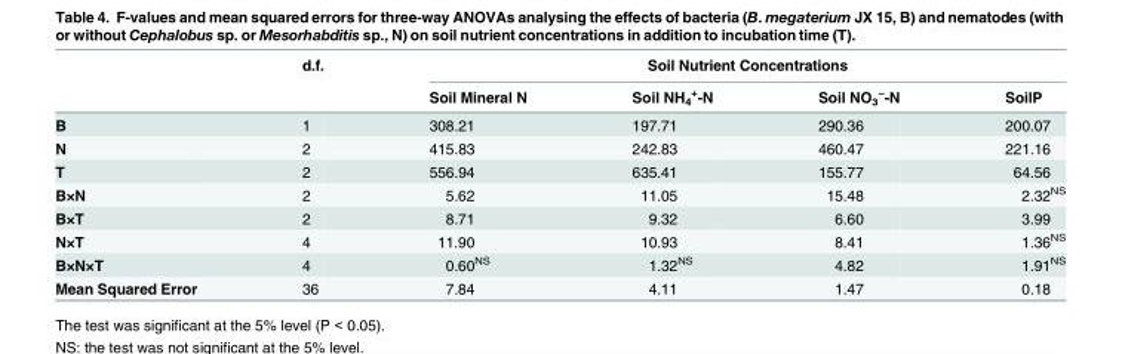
<table><thead><tr><td rowspan="2"></td><td rowspan="2">d.f.</td><td colspan="4">Soil Nutrient Concentrations</td></tr><tr><td>Soil Mineral N</td><td>Soil NH<sub>4</sub> <sup>+</sup>-N</td><td>Soil NO<sub>3</sub> <sup>−</sup>-N</td><td>SoilP</td></tr></thead><tbody><tr><td>B</td><td>1</td><td>308.21</td><td>197.71</td><td>290.36</td><td>200.07</td></tr><tr><td>N</td><td>2</td><td>415.83</td><td>242.83</td><td>460.47</td><td>221.16</td></tr><tr><td>T</td><td>2</td><td>556.94</td><td>635.41</td><td>155.77</td><td>64.56</td></tr><tr><td>B×N</td><td>2</td><td>5.62</td><td>11.05</td><td>15.48</td><td>2.32<sup>NS</sup></td></tr><tr><td>B×T</td><td>2</td><td>8.71</td><td>9.32</td><td>6.60</td><td>3.99</td></tr><tr><td>N×T</td><td>4</td><td>11.90</td><td>10.93</td><td>8.41</td><td>1.36<sup>NS</sup></td></tr><tr><td>B×N×T</td><td>4</td><td>0.60<sup>NS</sup></td><td>1.32<sup>NS</sup></td><td>4.82</td><td>1.91<sup>NS</sup></td></tr><tr><td>Mean Squared Error</td><td>36</td><td>7.84</td><td>4.11</td><td>1.47</td><td>0.18</td></tr></tbody></table>